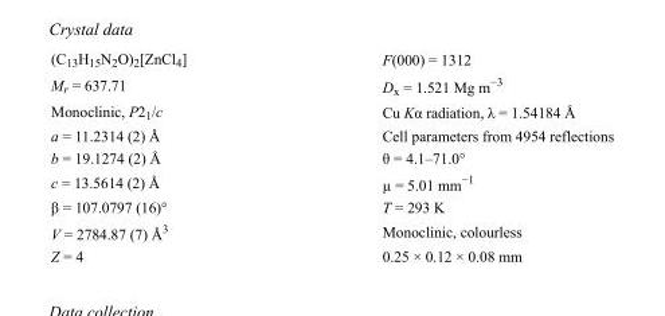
<table><tbody><tr><td>(C<sub>13</sub>H<sub>15</sub>N<sub>2</sub>O)<sub>2</sub>[ZnCl<sub>4</sub>]</td><td>F(000) = 1312</td></tr><tr><td>M<sub>r</sub> = 637.71</td><td>D<sub>x</sub> = 1.521 Mg m<sup>−3</sup></td></tr><tr><td>Monoclinic, P2<sub>1</sub>/c</td><td>Cu Kα radiation, λ = 1.54184 Å</td></tr><tr><td>a = 11.2314 (2) Å</td><td>Cell parameters from 4954 reflections</td></tr><tr><td>b = 19.1274 (2) Å</td><td>θ = 4.1–71.0°</td></tr><tr><td>c = 13.5614 (2) Å</td><td>µ = 5.01 mm<sup>−1</sup></td></tr><tr><td>β = 107.0797 (16)°</td><td>T = 293 K</td></tr><tr><td>V = 2784.87 (7) Å<sup>3</sup></td><td>Monoclinic, colourless</td></tr><tr><td>Z = 4</td><td>0.25 × 0.12 × 0.08 mm</td></tr></tbody></table>